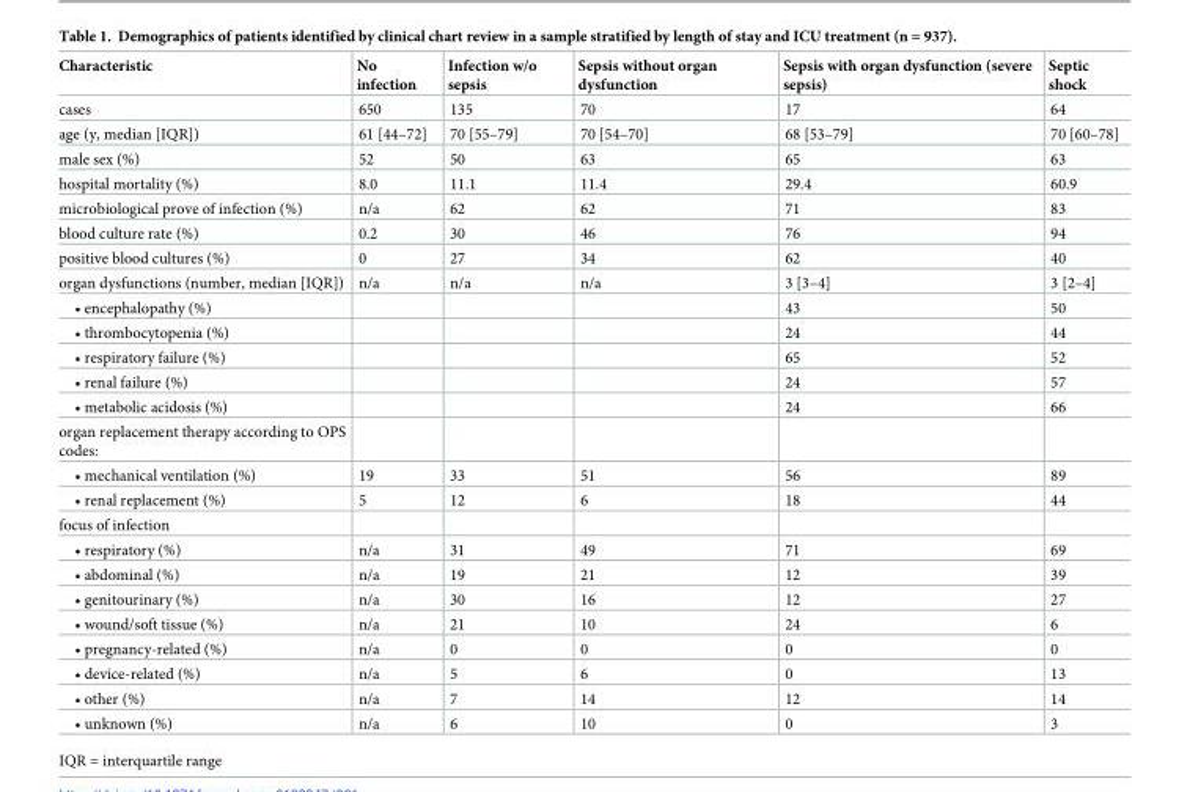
<table><thead><tr><td>Characteristic</td><td>No infection</td><td>Infection w/o sepsis</td><td>Sepsis without organ dysfunction</td><td>Sepsis with organ dysfunction (severe sepsis)</td><td>Septic shock</td></tr></thead><tbody><tr><td>cases</td><td>650</td><td>135</td><td>70</td><td>17</td><td>64</td></tr><tr><td>age (y, median [IQR])</td><td>61 [44–72]</td><td>70 [55–79]</td><td>70 [54–70]</td><td>68 [53–79]</td><td>70 [60–78]</td></tr><tr><td>male sex (%)</td><td>52</td><td>50</td><td>63</td><td>65</td><td>63</td></tr><tr><td>hospital mortality (%)</td><td>8.0</td><td>11.1</td><td>11.4</td><td>29.4</td><td>60.9</td></tr><tr><td>microbiological prove of infection (%)</td><td>n/a</td><td>62</td><td>62</td><td>71</td><td>83</td></tr><tr><td>blood culture rate (%)</td><td>0.2</td><td>30</td><td>46</td><td>76</td><td>94</td></tr><tr><td>positive blood cultures (%)</td><td>0</td><td>27</td><td>34</td><td>62</td><td>40</td></tr><tr><td>organ dysfunctions (number, median [IQR])</td><td>n/a</td><td>n/a</td><td>n/a</td><td>3 [3–4]</td><td>3 [2–4]</td></tr><tr><td>• encephalopathy (%)</td><td></td><td></td><td></td><td>43</td><td>50</td></tr><tr><td>• thrombocytopenia (%)</td><td></td><td></td><td></td><td>24</td><td>44</td></tr><tr><td>• respiratory failure (%)</td><td></td><td></td><td></td><td>65</td><td>52</td></tr><tr><td>• renal failure (%)</td><td></td><td></td><td></td><td>24</td><td>57</td></tr><tr><td>• metabolic acidosis (%)</td><td></td><td></td><td></td><td>24</td><td>66</td></tr><tr><td colspan="6">organ replacement therapy according to OPS codes:</td></tr><tr><td>• mechanical ventilation (%)</td><td>19</td><td>33</td><td>51</td><td>56</td><td>89</td></tr><tr><td>• renal replacement (%)</td><td>5</td><td>12</td><td>6</td><td>18</td><td>44</td></tr><tr><td colspan="6">focus of infection</td></tr><tr><td>• respiratory (%)</td><td>n/a</td><td>31</td><td>49</td><td>71</td><td>69</td></tr><tr><td>• abdominal (%)</td><td>n/a</td><td>19</td><td>21</td><td>12</td><td>39</td></tr><tr><td>• genitourinary (%)</td><td>n/a</td><td>30</td><td>16</td><td>12</td><td>27</td></tr><tr><td>• wound/soft tissue (%)</td><td>n/a</td><td>21</td><td>10</td><td>24</td><td>6</td></tr><tr><td>• pregnancy-related (%)</td><td>n/a</td><td>0</td><td>0</td><td>0</td><td>0</td></tr><tr><td>• device-related (%)</td><td>n/a</td><td>5</td><td>6</td><td>0</td><td>13</td></tr><tr><td>• other (%)</td><td>n/a</td><td>7</td><td>14</td><td>12</td><td>14</td></tr><tr><td>• unknown (%)</td><td>n/a</td><td>6</td><td>10</td><td>0</td><td>3</td></tr></tbody></table>